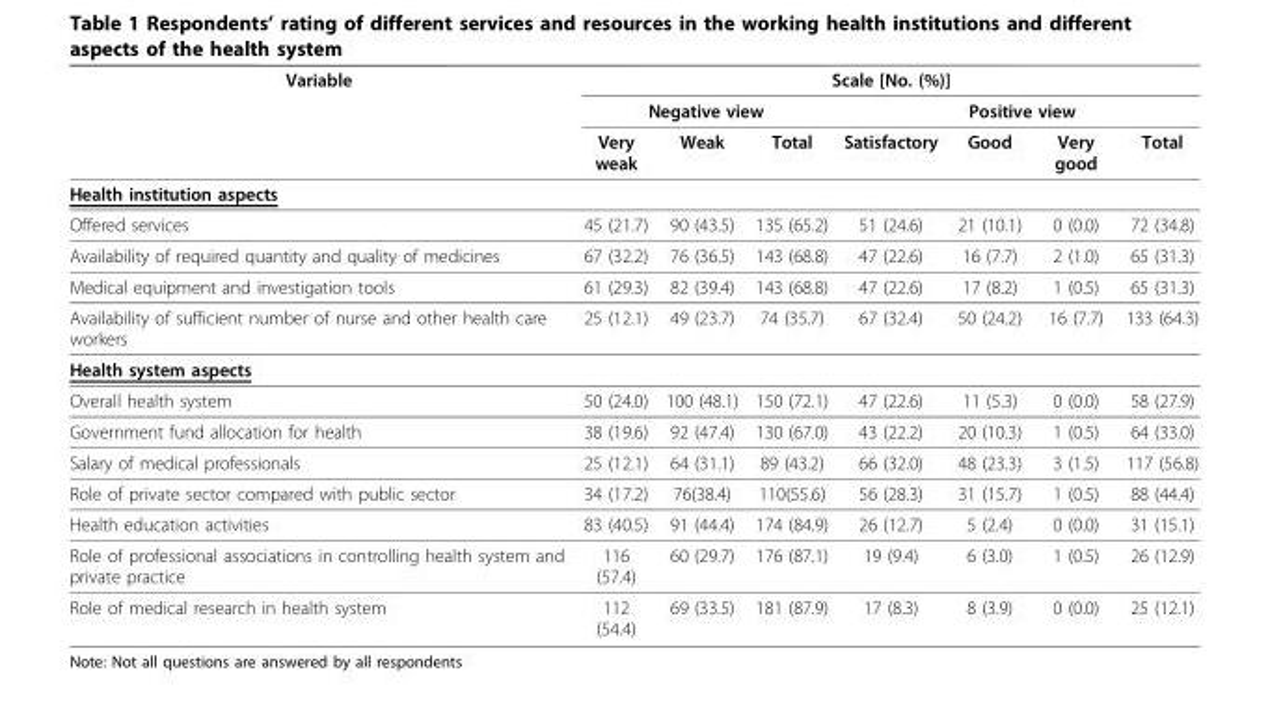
<table><thead><tr><td rowspan="3">Variable</td><td colspan="7">Scale [No. (%)]</td></tr><tr><td colspan="3">Negative view</td><td colspan="4">Positive view</td></tr><tr><td>Very weak</td><td>Weak</td><td>Total</td><td>Satisfactory</td><td>Good</td><td>Very good</td><td>Total</td></tr></thead><tbody><tr><td colspan="8">Health institution aspects</td></tr><tr><td>Offered services</td><td>45 (21.7)</td><td>90 (43.5)</td><td>135 (65.2)</td><td>51 (24.6)</td><td>21 (10.1)</td><td>0 (0.0)</td><td>72 (34.8)</td></tr><tr><td>Availability of required quantity and quality of medicines</td><td>67 (32.2)</td><td>76 (36.5)</td><td>143 (68.8)</td><td>47 (22.6)</td><td>16 (7.7)</td><td>2 (1.0)</td><td>65 (31.3)</td></tr><tr><td>Medical equipment and investigation tools</td><td>61 (29.3)</td><td>82 (39.4)</td><td>143 (68.8)</td><td>47 (22.6)</td><td>17 (8.2)</td><td>1 (0.5)</td><td>65 (31.3)</td></tr><tr><td>Availability of sufficient number of nurse and other health care workers</td><td>25 (12.1)</td><td>49 (23.7)</td><td>74 (35.7)</td><td>67 (32.4)</td><td>50 (24.2)</td><td>16 (7.7)</td><td>133 (64.3)</td></tr><tr><td colspan="8">Health system aspects</td></tr><tr><td>Overall health system</td><td>50 (24.0)</td><td>100 (48.1)</td><td>150 (72.1)</td><td>47 (22.6)</td><td>11 (5.3)</td><td>0 (0.0)</td><td>58 (27.9)</td></tr><tr><td>Government fund allocation for health</td><td>38 (19.6)</td><td>92 (47.4)</td><td>130 (67.0)</td><td>43 (22.2)</td><td>20 (10.3)</td><td>1 (0.5)</td><td>64 (33.0)</td></tr><tr><td>Salary of medical professionals</td><td>25 (12.1)</td><td>64 (31.1)</td><td>89 (43.2)</td><td>66 (32.0)</td><td>48 (23.3)</td><td>3 (1.5)</td><td>117 (56.8)</td></tr><tr><td>Role of private sector compared with public sector</td><td>34 (17.2)</td><td>76(38.4)</td><td>110(55.6)</td><td>56 (28.3)</td><td>31 (15.7)</td><td>1 (0.5)</td><td>88 (44.4)</td></tr><tr><td>Health education activities</td><td>83 (40.5)</td><td>91 (44.4)</td><td>174 (84.9)</td><td>26 (12.7)</td><td>5 (2.4)</td><td>0 (0.0)</td><td>31 (15.1)</td></tr><tr><td>Role of professional associations in controlling health system and private practice</td><td>116 (57.4)</td><td>60 (29.7)</td><td>176 (87.1)</td><td>19 (9.4)</td><td>6 (3.0)</td><td>1 (0.5)</td><td>26 (12.9)</td></tr><tr><td>Role of medical research in health system</td><td>112 (54.4)</td><td>69 (33.5)</td><td>181 (87.9)</td><td>17 (8.3)</td><td>8 (3.9)</td><td>0 (0.0)</td><td>25 (12.1)</td></tr></tbody></table>